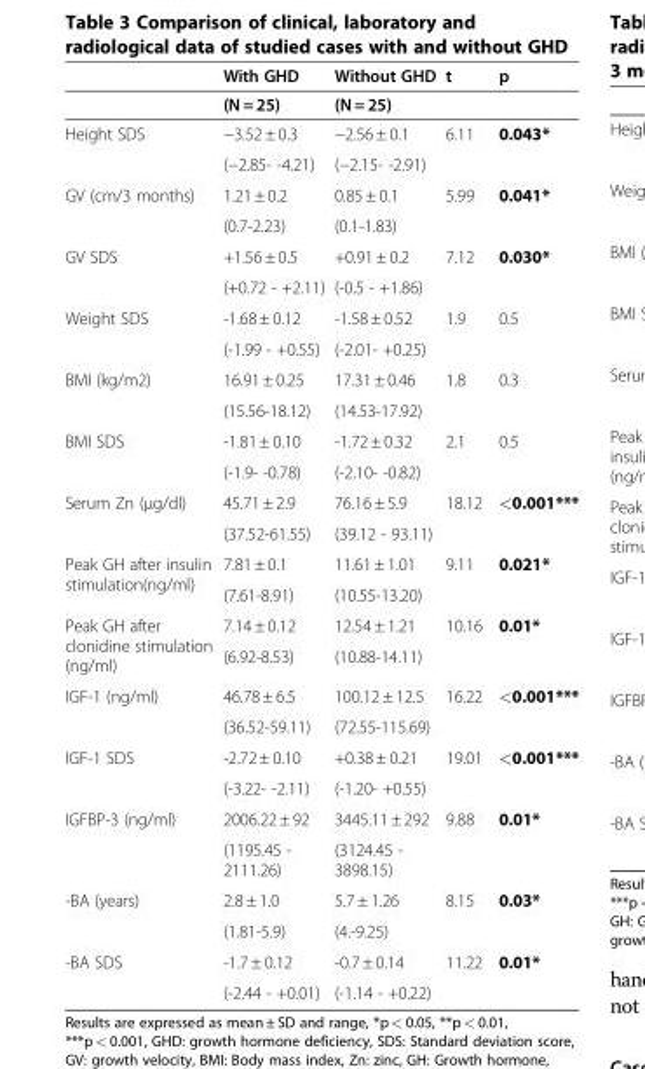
<table><thead><tr><td rowspan="2"></td><td rowspan="2">With GHD (N = 25)</td><td rowspan="2">Without GHD (N = 25)</td><td rowspan="2">t</td><td rowspan="2">p</td></tr><tr></tr></thead><tbody><tr><td rowspan="2">Height SDS</td><td>−3.52 ± 0.3</td><td>−2.56 ± 0.1</td><td>6.11</td><td>0.043*</td></tr><tr><td>(−2.85- -4.21)</td><td>(−2.15- -2.91)</td><td></td><td></td></tr><tr><td rowspan="2">GV (cm/3 months)</td><td>1.21 ± 0.2</td><td>0.85 ± 0.1</td><td>5.99</td><td>0.041*</td></tr><tr><td>(0.7-2.23)</td><td>(0.1-1.83)</td><td></td><td></td></tr><tr><td rowspan="2">GV SDS</td><td>+1.56 ± 0.5</td><td>+0.91 ± 0.2</td><td>7.12</td><td>0.030*</td></tr><tr><td>(+0.72 - +2.11)</td><td>(-0.5 - +1.86)</td><td></td><td></td></tr><tr><td rowspan="2">Weight SDS</td><td>-1.68 ± 0.12</td><td>-1.58 ± 0.52</td><td>1.9</td><td>0.5</td></tr><tr><td>(-1.99 - +0.55)</td><td>(-2.01- +0.25)</td><td></td><td></td></tr><tr><td rowspan="2">BMI (kg/m2)</td><td>16.91 ± 0.25</td><td>17.31 ± 0.46</td><td>1.8</td><td>0.3</td></tr><tr><td>(15.56-18.12)</td><td>(14.53-17.92)</td><td></td><td></td></tr><tr><td rowspan="2">BMI SDS</td><td>-1.81 ± 0.10</td><td>-1.72 ± 0.32</td><td>2.1</td><td>0.5</td></tr><tr><td>(-1.9- -0.78)</td><td>(-2.10- -0.82)</td><td></td><td></td></tr><tr><td rowspan="2">Serum Zn (μg/dl)</td><td>45.71 ± 2.9</td><td>76.16 ± 5.9</td><td>18.12</td><td>&lt;0.001***</td></tr><tr><td>(37.52-61.55)</td><td>(39.12 - 93.11)</td><td></td><td></td></tr><tr><td rowspan="2">Peak GH after insulin stimulation(ng/ml)</td><td>7.81 ± 0.1</td><td>11.61 ± 1.01</td><td>9.11</td><td>0.021*</td></tr><tr><td>(7.61-8.91)</td><td>(10.55-13.20)</td><td></td><td></td></tr><tr><td rowspan="2">Peak GH after clonidine stimulation (ng/ml)</td><td>7.14 ± 0.12</td><td>12.54 ± 1.21</td><td>10.16</td><td>0.01*</td></tr><tr><td>(6.92-8.53)</td><td>(10.88-14.11)</td><td></td><td></td></tr><tr><td rowspan="2">IGF-1 (ng/ml)</td><td>46.78 ± 6.5</td><td>100.12 ± 12.5</td><td>16.22</td><td>&lt;0.001***</td></tr><tr><td>(36.52-59.11)</td><td>(72.55-115.69)</td><td></td><td></td></tr><tr><td rowspan="2">IGF-1 SDS</td><td>-2.72 ± 0.10</td><td>+0.38 ± 0.21</td><td>19.01</td><td>&lt;0.001***</td></tr><tr><td>(-3.22- -2.11)</td><td>(-1.20- +0.55)</td><td></td><td></td></tr><tr><td rowspan="2">IGFBP-3 (ng/ml)</td><td>2006.22 ± 92</td><td>3445.11 ± 292</td><td>9.88</td><td>0.01*</td></tr><tr><td>(1195.45 - 2111.26)</td><td>(3124.45 - 3898.15)</td><td></td><td></td></tr><tr><td rowspan="2">-BA (years)</td><td>2.8 ± 1.0</td><td>5.7 ± 1.26</td><td>8.15</td><td>0.03*</td></tr><tr><td>(1.81-5.9)</td><td>(4.-9.25)</td><td></td><td></td></tr><tr><td rowspan="2">-BA SDS</td><td>-1.7 ± 0.12</td><td>-0.7 ± 0.14</td><td>11.22</td><td>0.01*</td></tr><tr><td>(-2.44 - +0.01)</td><td>(-1.14 - +0.22)</td><td></td><td></td></tr></tbody></table>